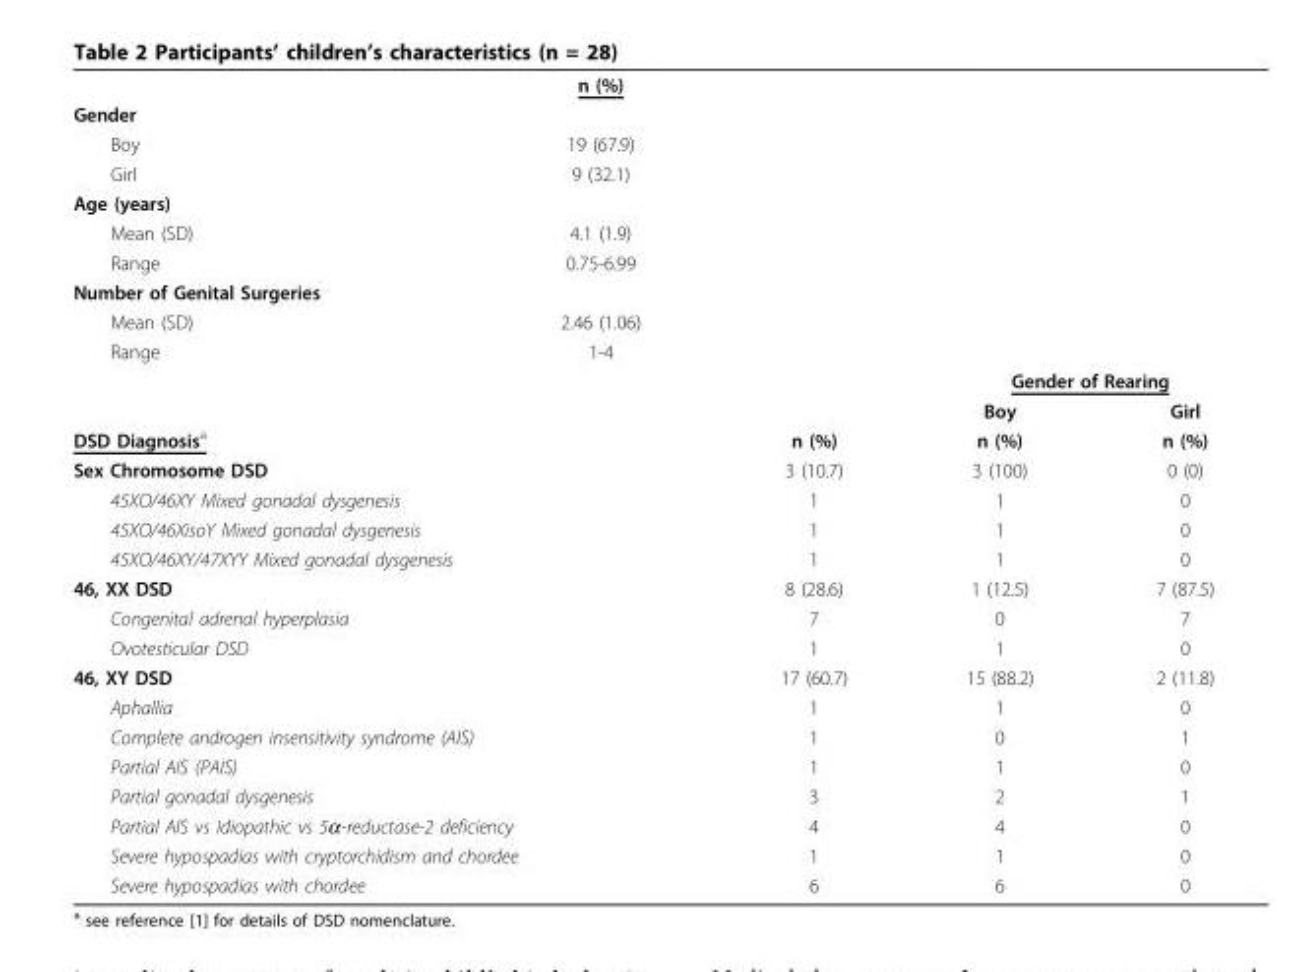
<table><thead><tr><td></td><td>n (%)</td><td></td><td></td><td></td></tr></thead><tbody><tr><td colspan="5">Gender</td></tr><tr><td>Boy</td><td>19 (67.9)</td><td></td><td></td><td></td></tr><tr><td>Girl</td><td>9 (32.1)</td><td></td><td></td><td></td></tr><tr><td colspan="5">Age (years)</td></tr><tr><td>Mean (SD)</td><td>4.1 (1.9)</td><td></td><td></td><td></td></tr><tr><td>Range</td><td>0.75-6.99</td><td></td><td></td><td></td></tr><tr><td colspan="5">Number of Genital Surgeries</td></tr><tr><td>Mean (SD)</td><td>2.46 (1.06)</td><td></td><td></td><td></td></tr><tr><td rowspan="3">Range</td><td>1-4</td><td></td><td></td><td></td></tr><tr><td></td><td></td><td colspan="2">Gender of Rearing</td></tr><tr><td></td><td></td><td>Boy</td><td>Girl</td></tr><tr><td colspan="2">DSD Diagnosis<sup>a</sup></td><td>n (%)</td><td>n (%)</td><td>n (%)</td></tr><tr><td colspan="2">Sex Chromosome DSD</td><td>3 (10.7)</td><td>3 (100)</td><td>0 (0)</td></tr><tr><td colspan="2">45XO/46XY Mixed gonadal dysgenesis</td><td>1</td><td>1</td><td>0</td></tr><tr><td colspan="2">45XO/46XisoY Mixed gonadal dysgenesis</td><td>1</td><td>1</td><td>0</td></tr><tr><td colspan="2">45XO/46XY/47XYY Mixed gonadal dysgenesis</td><td>1</td><td>1</td><td>0</td></tr><tr><td colspan="2">46, XX DSD</td><td>8 (28.6)</td><td>1 (12.5)</td><td>7 (87.5)</td></tr><tr><td colspan="2">Congenital adrenal hyperplasia</td><td>7</td><td>0</td><td>7</td></tr><tr><td colspan="2">Ovotesticular DSD</td><td>1</td><td>1</td><td>0</td></tr><tr><td colspan="2">46, XY DSD</td><td>17 (60.7)</td><td>15 (88.2)</td><td>2 (11.8)</td></tr><tr><td colspan="2">Aphallia</td><td>1</td><td>1</td><td>0</td></tr><tr><td colspan="2">Complete androgen insensitivity syndrome (AIS)</td><td>1</td><td>0</td><td>1</td></tr><tr><td colspan="2">Partial AIS (PAIS)</td><td>1</td><td>1</td><td>0</td></tr><tr><td colspan="2">Partial gonadal dysgenesis</td><td>3</td><td>2</td><td>1</td></tr><tr><td colspan="2">Partial AIS vs Idiopathic vs 5α-reductase-2 deficiency</td><td>4</td><td>4</td><td>0</td></tr><tr><td colspan="2">Severe hypospadias with cryptorchidism and chordee</td><td>1</td><td>1</td><td>0</td></tr><tr><td colspan="2">Severe hypospadias with chordee</td><td>6</td><td>6</td><td>0</td></tr></tbody></table>